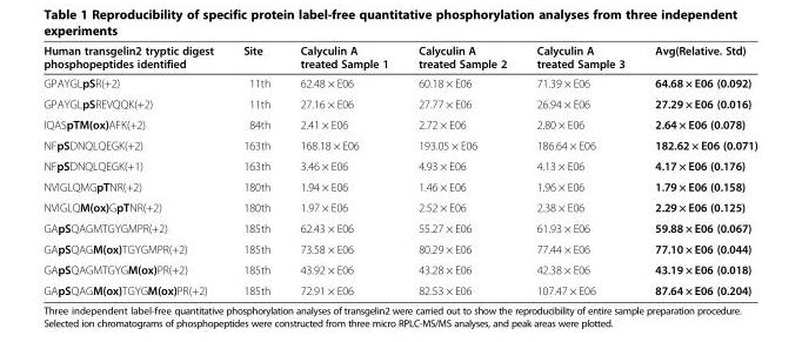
<table><thead><tr><td>Human transgelin2 tryptic digest phosphopeptides identified</td><td>Site</td><td>Calyculin A treated Sample 1</td><td>Calyculin A treated Sample 2</td><td>Calyculin A treated Sample 3</td><td>Avg(Relative. Std)</td></tr></thead><tbody><tr><td>GPAYGLpSR(+2)</td><td>11th</td><td>62.48 × E06</td><td>60.18 × E06</td><td>71.39 × E06</td><td>64.68 × E06 (0.092)</td></tr><tr><td>GPAYGLpSREVQQK(+2)</td><td>11th</td><td>27.16 × E06</td><td>27.77 × E06</td><td>26.94 × E06</td><td>27.29 × E06 (0.016)</td></tr><tr><td>IQASpTM(ox)AFK(+2)</td><td>84th</td><td>2.41 × E06</td><td>2.72 × E06</td><td>2.80 × E06</td><td>2.64 × E06 (0.078)</td></tr><tr><td>NFpSDNQLQEGK(+2)</td><td>163th</td><td>168.18 × E06</td><td>193.05 × E06</td><td>186.64 × E06</td><td>182.62 × E06 (0.071)</td></tr><tr><td>NFpSDNQLQEGK(+1)</td><td>163th</td><td>3.46 × E06</td><td>4.93 × E06</td><td>4.13 × E06</td><td>4.17 × E06 (0.176)</td></tr><tr><td>NVIGLQMGpTNR(+2)</td><td>180th</td><td>1.94 × E06</td><td>1.46 × E06</td><td>1.96 × E06</td><td>1.79 × E06 (0.158)</td></tr><tr><td>NVIGLQM(ox)GpTNR(+2)</td><td>180th</td><td>1.97 × E06</td><td>2.52 × E06</td><td>2.38 × E06</td><td>2.29 × E06 (0.125)</td></tr><tr><td>GApSQAGMTGYGMPR(+2)</td><td>185th</td><td>62.43 × E06</td><td>55.27 × E06</td><td>61.93 × E06</td><td>59.88 × E06 (0.067)</td></tr><tr><td>GApSQAGM(ox)TGYGMPR(+2)</td><td>185th</td><td>73.58 × E06</td><td>80.29 × E06</td><td>77.44 × E06</td><td>77.10 × E06 (0.044)</td></tr><tr><td>GApSQAGMTGYGM(ox)PR(+2)</td><td>185th</td><td>43.92 × E06</td><td>43.28 × E06</td><td>42.38 × E06</td><td>43.19 × E06 (0.018)</td></tr><tr><td>GApSQAGM(ox)TGYGM(ox)PR(+2)</td><td>185th</td><td>72.91 × E06</td><td>82.53 × E06</td><td>107.47 × E06</td><td>87.64 × E06 (0.204)</td></tr></tbody></table>